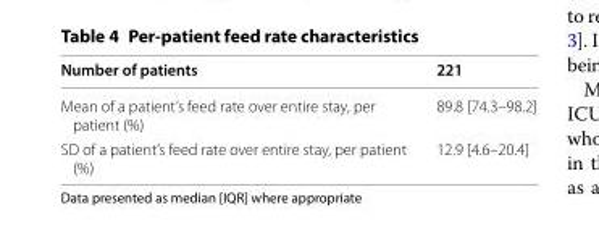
<table><thead><tr><td>Number of patients</td><td>221</td></tr></thead><tbody><tr><td>Mean of a patient’s feed rate over entire stay, per patient (%)</td><td>89.8 [74.3–98.2]</td></tr><tr><td>SD of a patient’s feed rate over entire stay, per patient (%)</td><td>12.9 [4.6–20.4]</td></tr></tbody></table>